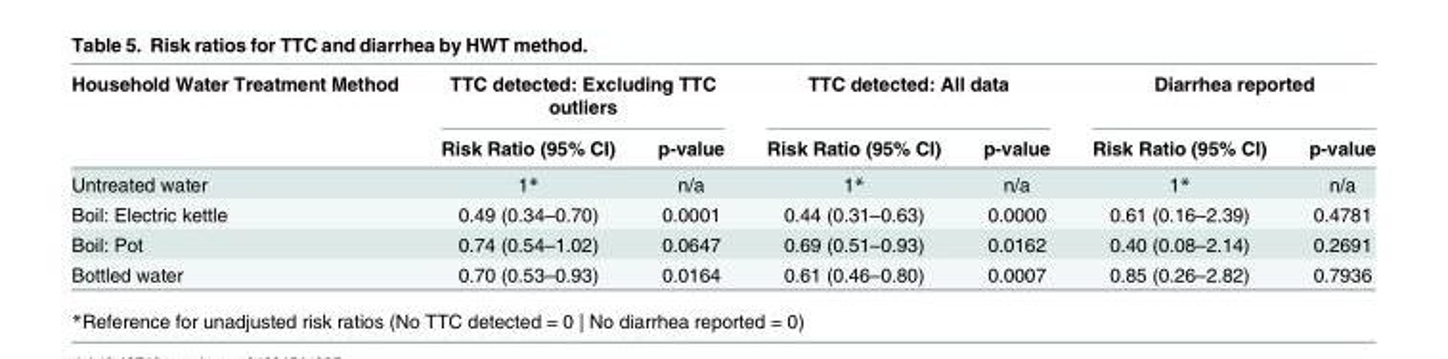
<table><thead><tr><td rowspan="2">Household Water Treatment Method</td><td colspan="2">TTC detected: Excluding TTC outliers</td><td colspan="2">TTC detected: All data</td><td colspan="2">Diarrhea reported</td></tr><tr><td>Risk Ratio (95% CI)</td><td>p-value</td><td>Risk Ratio (95% CI)</td><td>p-value</td><td>Risk Ratio (95% CI)</td><td>p-value</td></tr></thead><tbody><tr><td>Untreated water</td><td>1*</td><td>n/a</td><td>1*</td><td>n/a</td><td>1*</td><td>n/a</td></tr><tr><td>Boil: Electric kettle</td><td>0.49 (0.34–0.70)</td><td>0.0001</td><td>0.44 (0.31–0.63)</td><td>0.0000</td><td>0.61 (0.16–2.39)</td><td>0.4781</td></tr><tr><td>Boil: Pot</td><td>0.74 (0.54–1.02)</td><td>0.0647</td><td>0.69 (0.51–0.93)</td><td>0.0162</td><td>0.40 (0.08–2.14)</td><td>0.2691</td></tr><tr><td>Bottled water</td><td>0.70 (0.53–0.93)</td><td>0.0164</td><td>0.61 (0.46–0.80)</td><td>0.0007</td><td>0.85 (0.26–2.82)</td><td>0.7936</td></tr></tbody></table>